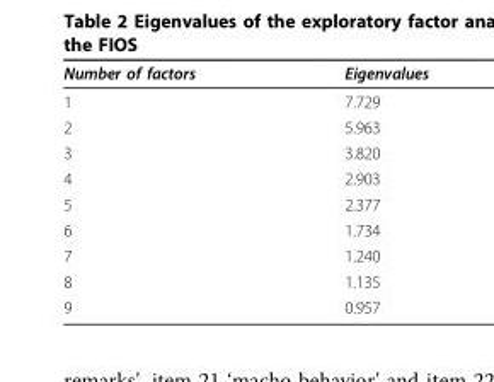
<table><thead><tr><td>Number of factors</td><td>Eigenvalues</td></tr></thead><tbody><tr><td>1</td><td>7.729</td></tr><tr><td>2</td><td>5.963</td></tr><tr><td>3</td><td>3.820</td></tr><tr><td>4</td><td>2.903</td></tr><tr><td>5</td><td>2.377</td></tr><tr><td>6</td><td>1.734</td></tr><tr><td>7</td><td>1.240</td></tr><tr><td>8</td><td>1.135</td></tr><tr><td>9</td><td>0.957</td></tr></tbody></table>